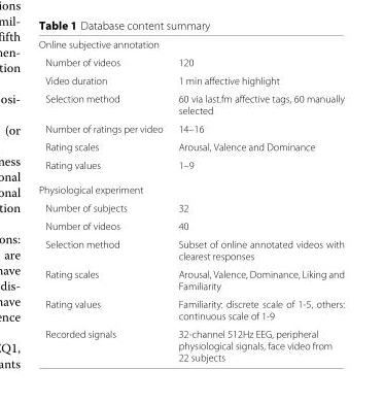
<table><tbody><tr><td colspan="2">Online subjective annotation</td></tr><tr><td>Number of videos</td><td>120</td></tr><tr><td>Video duration</td><td>1 min affective highlight</td></tr><tr><td>Selection method</td><td>60 via last.fm affective tags, 60 manually selected</td></tr><tr><td>Number of ratings per video</td><td>14–16</td></tr><tr><td>Rating scales</td><td>Arousal, Valence and Dominance</td></tr><tr><td>Rating values</td><td>1–9</td></tr><tr><td colspan="2">Physiological experiment</td></tr><tr><td>Number of subjects</td><td>32</td></tr><tr><td>Number of videos</td><td>40</td></tr><tr><td>Selection method</td><td>Subset of online annotated videos with clearest responses</td></tr><tr><td>Rating scales</td><td>Arousal, Valence, Dominance, Liking and Familiarity</td></tr><tr><td>Rating values</td><td>Familiarity: discrete scale of 1-5, others: continuous scale of 1-9</td></tr><tr><td>Recorded signals</td><td>32-channel 512Hz EEG, peripheral physiological signals, face video from 22 subjects</td></tr></tbody></table>